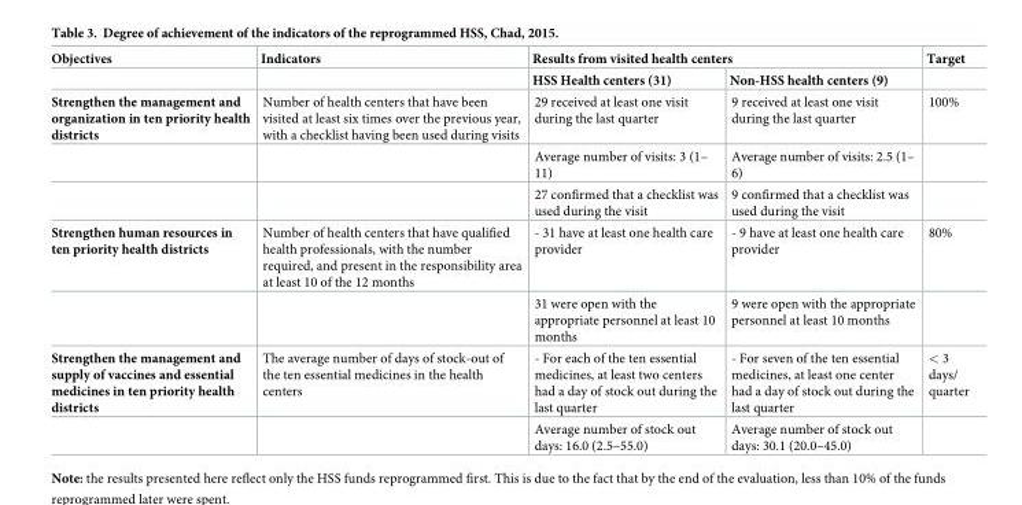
<table><thead><tr><td rowspan="2">Objectives</td><td rowspan="2">Indicators</td><td colspan="2">Results from visited health centers</td><td rowspan="2">Target</td></tr><tr><td>HSS Health centers (31)</td><td>Non-HSS health centers (9)</td></tr></thead><tbody><tr><td rowspan="3">Strengthen the management and organization in ten priority health districts</td><td>Number of health centers that have been visited at least six times over the previous year, with a checklist having been used during visits</td><td>29 received at least one visit during the last quarter</td><td>9 received at least one visit during the last quarter</td><td>100%</td></tr><tr><td></td><td>Average number of visits: 3 (1– 11)</td><td>Average number of visits: 2.5 (1– 6)</td><td></td></tr><tr><td></td><td>27 confirmed that a checklist was used during the visit</td><td>9 confirmed that a checklist was used during the visit</td><td></td></tr><tr><td rowspan="2">Strengthen human resources in ten priority health districts</td><td>Number of health centers that have qualified health professionals, with the number required, and present in the responsibility area at least 10 of the 12 months</td><td>- 31 have at least one health care provider</td><td>- 9 have at least one health care provider</td><td>80%</td></tr><tr><td></td><td>31 were open with the appropriate personnel at least 10 months</td><td>9 were open with the appropriate personnel at least 10 months</td><td></td></tr><tr><td rowspan="2">Strengthen the management and supply of vaccines and essential medicines in ten priority health districts</td><td>The average number of days of stock-out of the ten essential medicines in the health centers</td><td>- For each of the ten essential medicines, at least two centers had a day of stock out during the last quarter</td><td>- For seven of the ten essential medicines, at least one center had a day of stock out during the last quarter</td><td>&lt; 3 days/ quarter</td></tr><tr><td></td><td>Average number of stock out days: 16.0 (2.5–55.0)</td><td>Average number of stock out days: 30.1 (20.0–45.0)</td><td></td></tr></tbody></table>